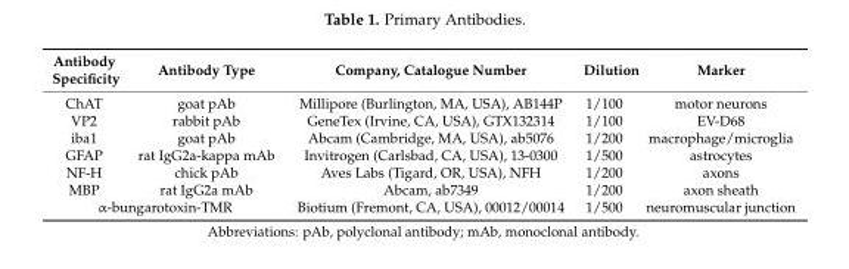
<table><thead><tr><td>Antibody Specificity</td><td>Antibody Type</td><td>Company, Catalogue Number</td><td>Dilution</td><td>Marker</td></tr></thead><tbody><tr><td>ChAT</td><td>goat pAb</td><td>Millipore (Burlington, MA, USA), AB144P</td><td>1/100</td><td>motor neurons</td></tr><tr><td>VP2</td><td>rabbit pAb</td><td>GeneTex (Irvine, CA, USA), GTX132314</td><td>1/100</td><td>EV-D68</td></tr><tr><td>iba1</td><td>goat pAb</td><td>Abcam (Cambridge, MA, USA), ab5076</td><td>1/200</td><td>macrophage/microglia</td></tr><tr><td>GFAP</td><td>rat IgG2a-kappa mAb</td><td>Invitrogen (Carlsbad, CA, USA), 13-0300</td><td>1/500</td><td>astrocytes</td></tr><tr><td>NF-H</td><td>chick pAb</td><td>Aves Labs (Tigard, OR, USA), NFH</td><td>1/200</td><td>axons</td></tr><tr><td>MBP</td><td>rat IgG2a mAb</td><td>Abcam, ab7349</td><td>1/200</td><td>axon sheath</td></tr><tr><td colspan="2">α-bungarotoxin-TMR</td><td>Biotium (Fremont, CA, USA), 00012/00014</td><td>1/500</td><td>neuromuscular junction</td></tr></tbody></table>